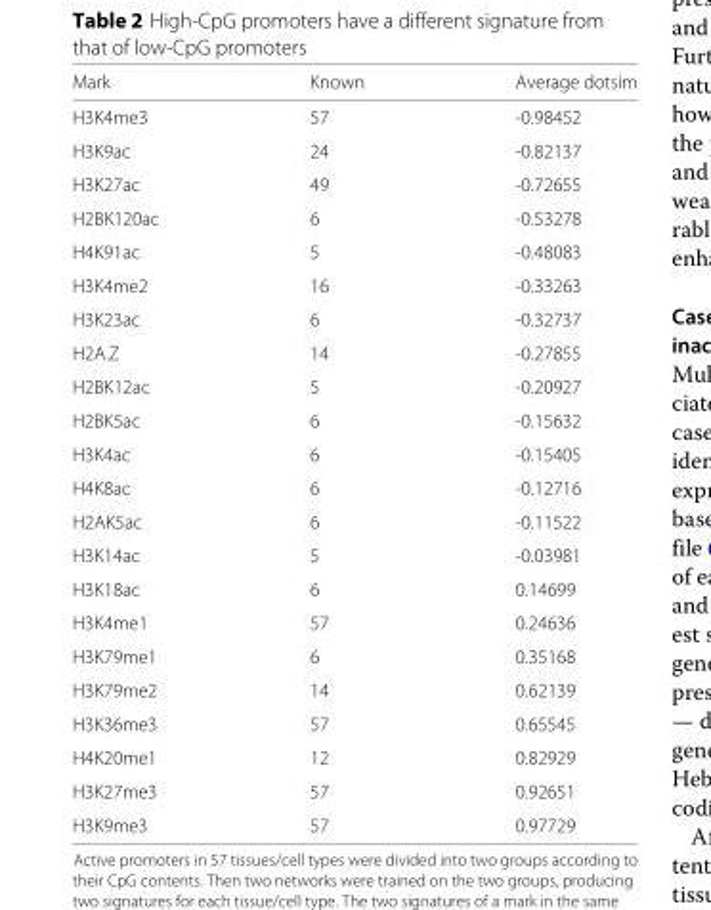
<table><thead><tr><td>Mark</td><td>Known</td><td>Average dotsim</td></tr></thead><tbody><tr><td>H3K4me3</td><td>57</td><td>-0.98452</td></tr><tr><td>H3K9ac</td><td>24</td><td>-0.82137</td></tr><tr><td>H3K27ac</td><td>49</td><td>-0.72655</td></tr><tr><td>H2BK120ac</td><td>6</td><td>-0.53278</td></tr><tr><td>H4K91ac</td><td>5</td><td>-0.48083</td></tr><tr><td>H3K4me2</td><td>16</td><td>-0.33263</td></tr><tr><td>H3K23ac</td><td>6</td><td>-0.32737</td></tr><tr><td>H2A.Z</td><td>14</td><td>-0.27855</td></tr><tr><td>H2BK12ac</td><td>5</td><td>-0.20927</td></tr><tr><td>H2BK5ac</td><td>6</td><td>-0.15632</td></tr><tr><td>H3K4ac</td><td>6</td><td>-0.15405</td></tr><tr><td>H4K8ac</td><td>6</td><td>-0.12716</td></tr><tr><td>H2AK5ac</td><td>6</td><td>-0.11522</td></tr><tr><td>H3K14ac</td><td>5</td><td>-0.03981</td></tr><tr><td>H3K18ac</td><td>6</td><td>0.14699</td></tr><tr><td>H3K4me1</td><td>57</td><td>0.24636</td></tr><tr><td>H3K79me1</td><td>6</td><td>0.35168</td></tr><tr><td>H3K79me2</td><td>14</td><td>0.62139</td></tr><tr><td>H3K36me3</td><td>57</td><td>0.65545</td></tr><tr><td>H4K20me1</td><td>12</td><td>0.82929</td></tr><tr><td>H3K27me3</td><td>57</td><td>0.92651</td></tr><tr><td>H3K9me3</td><td>57</td><td>0.97729</td></tr></tbody></table>